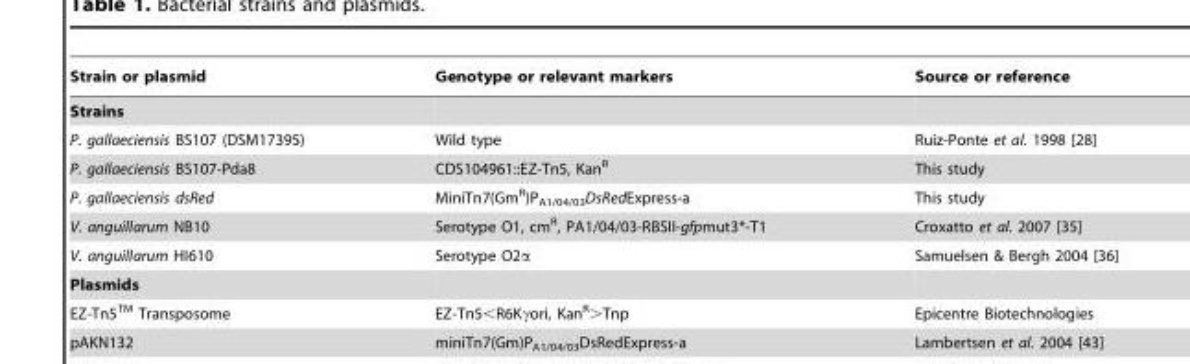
<table><thead><tr><td>Strain or plasmid</td><td>Genotype or relevant markers</td><td>Source or reference</td></tr></thead><tbody><tr><td colspan="3">Strains</td></tr><tr><td>P. gallaeciensis BS107 (DSM17395)</td><td>Wild type</td><td>Ruiz-Ponte et al. 1998 [28]</td></tr><tr><td>P. gallaeciensis BS107-Pda8</td><td>CDS104961::EZ-Tn5, Kan<sup>R</sup></td><td>This study</td></tr><tr><td>P. gallaeciensis dsRed</td><td>MiniTn7(Gm<sup>R</sup>)P<sub>A1/04/03</sub>DsRedExpress-a</td><td>This study</td></tr><tr><td>V. anguillarum NB10</td><td>Serotype O1, cm<sup>R</sup>, PA1/04/03-RBSII-gfpmut3*-T1</td><td>Croxatto et al. 2007 [35]</td></tr><tr><td>V. anguillarum HI610</td><td>Serotype O2α</td><td>Samuelsen &amp; Bergh 2004 [36]</td></tr><tr><td>Plasmids</td><td></td><td></td></tr></tbody></table>